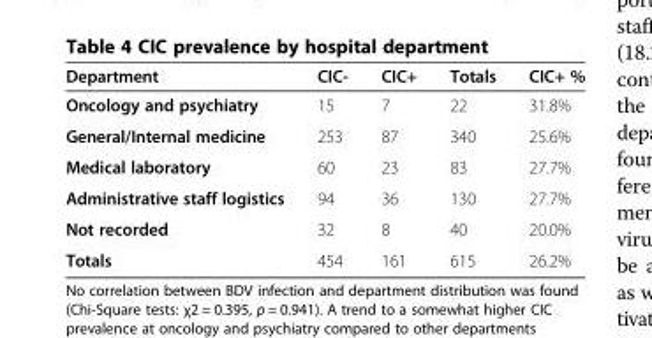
<table><thead><tr><td>Department</td><td>CIC-</td><td>CIC+</td><td>Totals</td><td>CIC+ %</td></tr></thead><tbody><tr><td>Oncology and psychiatry</td><td>15</td><td>7</td><td>22</td><td>31.8%</td></tr><tr><td>General/Internal medicine</td><td>253</td><td>87</td><td>340</td><td>25.6%</td></tr><tr><td>Medical laboratory</td><td>60</td><td>23</td><td>83</td><td>27.7%</td></tr><tr><td>Administrative staff logistics</td><td>94</td><td>36</td><td>130</td><td>27.7%</td></tr><tr><td>Not recorded</td><td>32</td><td>8</td><td>40</td><td>20.0%</td></tr><tr><td>Totals</td><td>454</td><td>161</td><td>615</td><td>26.2%</td></tr></tbody></table>